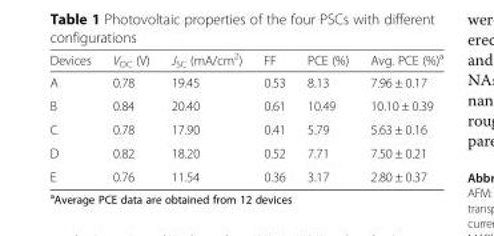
<table><thead><tr><td>Devices</td><td>V<sub>OC</sub> (V)</td><td>J<sub>SC</sub> (mA/cm<sup>2</sup>)</td><td>FF</td><td>PCE (%)</td><td>Avg. PCE (%)<sup>a</sup></td></tr></thead><tbody><tr><td>A</td><td>0.78</td><td>19.45</td><td>0.53</td><td>8.13</td><td>7.96 ± 0.17</td></tr><tr><td>B</td><td>0.84</td><td>20.40</td><td>0.61</td><td>10.49</td><td>10.10 ± 0.39</td></tr><tr><td>C</td><td>0.78</td><td>17.90</td><td>0.41</td><td>5.79</td><td>5.63 ± 0.16</td></tr><tr><td>D</td><td>0.82</td><td>18.20</td><td>0.52</td><td>7.71</td><td>7.50 ± 0.21</td></tr><tr><td>E</td><td>0.76</td><td>11.54</td><td>0.36</td><td>3.17</td><td>2.80 ± 0.37</td></tr></tbody></table>